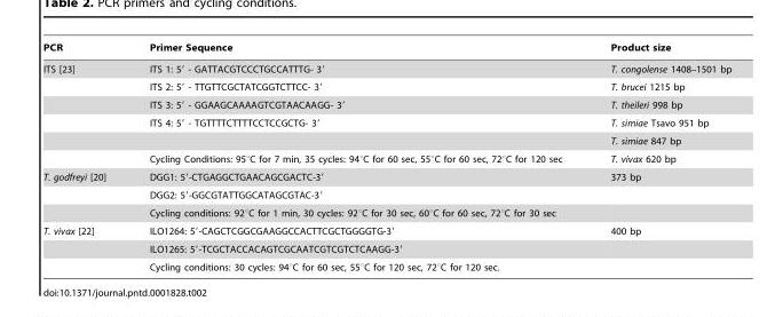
<table><thead><tr><td>PCR</td><td>Primer Sequence</td><td>Product size</td></tr></thead><tbody><tr><td rowspan="6">ITS [23]</td><td>ITS 1: 5′ - GATTACGTCCCTGCCATTTG- 3′</td><td>T. congolense 1408–1501 bp</td></tr><tr><td>ITS 2: 5′ - TTGTTCGCTATCGGTCTTCC- 3′</td><td>T. brucei 1215 bp</td></tr><tr><td>ITS 3: 5′ - GGAAGCAAAAGTCGTAACAAGG- 3′</td><td>T. theileri 998 bp</td></tr><tr><td>ITS 4: 5′ - TGTTTTCTTTTCCTCCGCTG- 3′</td><td>T. simiae Tsavo 951 bp</td></tr><tr><td></td><td>T. simiae 847 bp</td></tr><tr><td>Cycling Conditions: 95°C for 7 min, 35 cycles: 94°C for 60 sec, 55°C for 60 sec, 72°C for 120 sec</td><td>T. vivax 620 bp</td></tr><tr><td rowspan="3">T. godfreyi [20]</td><td>DGG1: 5′-CTGAGGCTGAACAGCGACTC-3′</td><td>373 bp</td></tr><tr><td>DGG2: 5′-GGCGTATTGGCATAGCGTAC-3′</td><td></td></tr><tr><td>Cycling conditions: 92°C for 1 min, 30 cycles: 92°C for 30 sec, 60°C for 60 sec, 72°C for 30 sec</td><td></td></tr><tr><td rowspan="3">T. vivax [22]</td><td>ILO1264: 5′-CAGCTCGGCGAAGGCCACTTCGCTGGGGTG-3′</td><td>400 bp</td></tr><tr><td>ILO1265: 5′-TCGCTACCACAGTCGCAATCGTCGTCTCAAGG-3′</td><td></td></tr><tr><td>Cycling conditions: 30 cycles: 94°C for 60 sec, 55°C for 120 sec, 72°C for 120 sec.</td><td></td></tr></tbody></table>